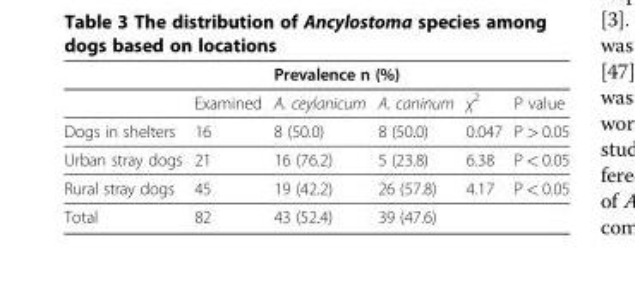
<table><thead><tr><td rowspan="2"></td><td rowspan="2">Examined</td><td colspan="2">Prevalence n (%)</td><td rowspan="2">χ<sup>2</sup></td><td rowspan="2">P value</td></tr><tr><td>A. ceylanicum</td><td>A. caninum</td></tr></thead><tbody><tr><td>Dogs in shelters</td><td>16</td><td>8 (50.0)</td><td>8 (50.0)</td><td>0.047</td><td>P &gt; 0.05</td></tr><tr><td>Urban stray dogs</td><td>21</td><td>16 (76.2)</td><td>5 (23.8)</td><td>6.38</td><td>P &lt; 0.05</td></tr><tr><td>Rural stray dogs</td><td>45</td><td>19 (42.2)</td><td>26 (57.8)</td><td>4.17</td><td>P &lt; 0.05</td></tr><tr><td>Total</td><td>82</td><td>43 (52.4)</td><td>39 (47.6)</td><td></td><td></td></tr></tbody></table>